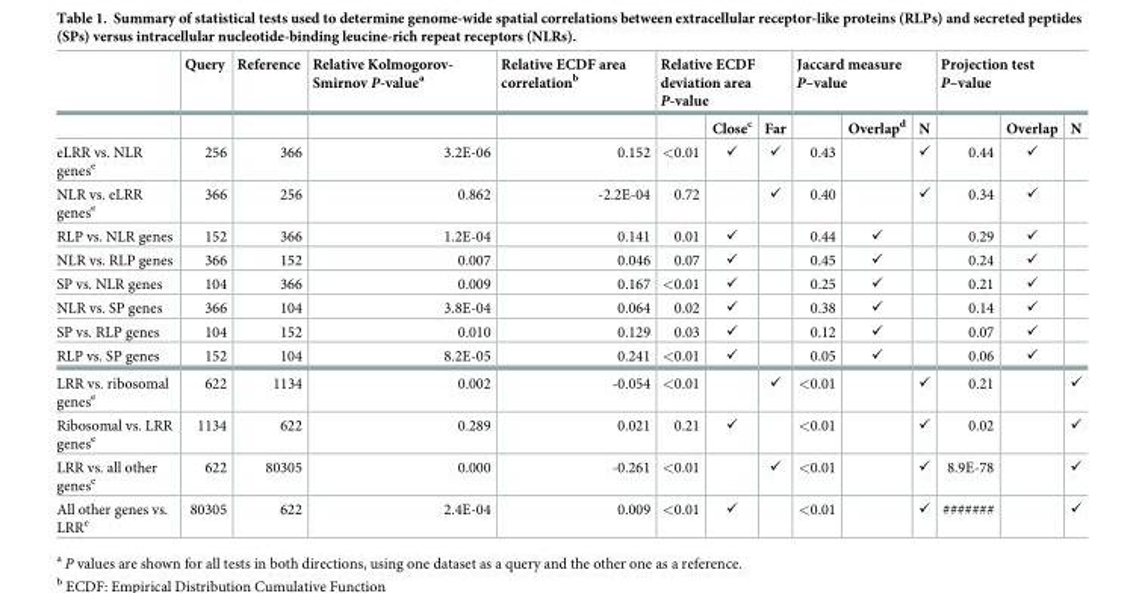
<table><thead><tr><td rowspan="2"></td><td rowspan="2">Query</td><td rowspan="2">Reference</td><td rowspan="2">Relative Kolmogorov- Smirnov P-value<sup>a</sup></td><td rowspan="2">Relative ECDF area correlation<sup>b</sup></td><td colspan="3">Relative ECDF deviation area P-value</td><td colspan="3">Jaccard measure P–value</td><td colspan="3">Projection test P–value</td></tr><tr><td></td><td>Close<sup>c</sup></td><td>Far</td><td></td><td>Overlap<sup>d</sup></td><td>N</td><td></td><td>Overlap</td><td>N</td></tr></thead><tbody><tr><td>eLRR vs. NLR genes<sup>e</sup></td><td>256</td><td>366</td><td>3.2E-06</td><td>0.152</td><td>&lt;0.01</td><td>✓</td><td>✓</td><td>0.43</td><td></td><td>✓</td><td>0.44</td><td>✓</td><td></td></tr><tr><td>NLR vs. eLRR genes<sup>e</sup></td><td>366</td><td>256</td><td>0.862</td><td>-2.2E-04</td><td>0.72</td><td></td><td>✓</td><td>0.40</td><td></td><td>✓</td><td>0.34</td><td>✓</td><td></td></tr><tr><td>RLP vs. NLR genes</td><td>152</td><td>366</td><td>1.2E-04</td><td>0.141</td><td>0.01</td><td>✓</td><td></td><td>0.44</td><td>✓</td><td></td><td>0.29</td><td>✓</td><td></td></tr><tr><td>NLR vs. RLP genes</td><td>366</td><td>152</td><td>0.007</td><td>0.046</td><td>0.07</td><td>✓</td><td></td><td>0.45</td><td>✓</td><td></td><td>0.24</td><td>✓</td><td></td></tr><tr><td>SP vs. NLR genes</td><td>104</td><td>366</td><td>0.009</td><td>0.167</td><td>&lt;0.01</td><td>✓</td><td></td><td>0.25</td><td>✓</td><td></td><td>0.21</td><td>✓</td><td></td></tr><tr><td>NLR vs. SP genes</td><td>366</td><td>104</td><td>3.8E-04</td><td>0.064</td><td>0.02</td><td>✓</td><td></td><td>0.38</td><td>✓</td><td></td><td>0.14</td><td>✓</td><td></td></tr><tr><td>SP vs. RLP genes</td><td>104</td><td>152</td><td>0.010</td><td>0.129</td><td>0.03</td><td>✓</td><td></td><td>0.12</td><td>✓</td><td></td><td>0.07</td><td>✓</td><td></td></tr><tr><td>RLP vs. SP genes</td><td>152</td><td>104</td><td>8.2E-05</td><td>0.241</td><td>&lt;0.01</td><td>✓</td><td></td><td>0.05</td><td>✓</td><td></td><td>0.06</td><td>✓</td><td></td></tr><tr><td>LRR vs. ribosomal genes<sup>e</sup></td><td>622</td><td>1134</td><td>0.002</td><td>-0.054</td><td>&lt;0.01</td><td></td><td>✓</td><td>&lt;0.01</td><td></td><td>✓</td><td>0.21</td><td></td><td>✓</td></tr><tr><td>Ribosomal vs. LRR genes<sup>e</sup></td><td>1134</td><td>622</td><td>0.289</td><td>0.021</td><td>0.21</td><td>✓</td><td></td><td>&lt;0.01</td><td></td><td>✓</td><td>0.02</td><td></td><td>✓</td></tr><tr><td>LRR vs. all other genes<sup>e</sup></td><td>622</td><td>80305</td><td>0.000</td><td>-0.261</td><td>&lt;0.01</td><td></td><td>✓</td><td>&lt;0.01</td><td></td><td>✓</td><td>8.9E-78</td><td></td><td>✓</td></tr><tr><td>All other genes vs. LRR<sup>e</sup></td><td>80305</td><td>622</td><td>2.4E-04</td><td>0.009</td><td>&lt;0.01</td><td>✓</td><td></td><td>&lt;0.01</td><td></td><td>✓</td><td>#######</td><td></td><td>✓</td></tr></tbody></table>